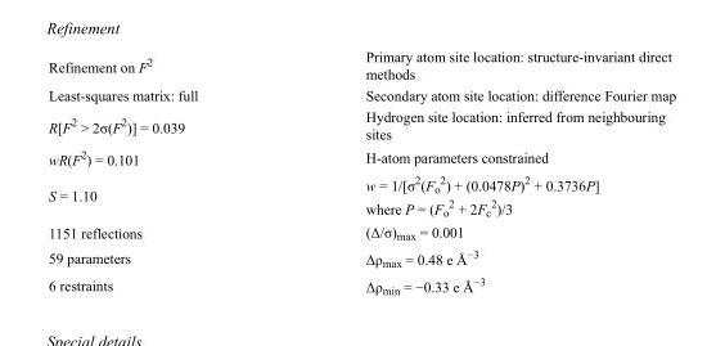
<table><tbody><tr><td>Refinement on F<sup>2</sup></td><td>Primary atom site location: structure-invariant direct methods</td></tr><tr><td>Least-squares matrix: full</td><td>Secondary atom site location: difference Fourier map</td></tr><tr><td>R[F<sup>2</sup> &gt; 2σ(F<sup>2</sup>)] = 0.039</td><td>Hydrogen site location: inferred from neighbouring sites</td></tr><tr><td>wR(F<sup>2</sup>) = 0.101</td><td>H-atom parameters constrained</td></tr><tr><td>S = 1.10</td><td>w = 1/[σ<sup>2</sup>(F<sub>o</sub> <sup>2</sup>) + (0.0478P)<sup>2</sup> + 0.3736P] where P = (F<sub>o</sub> <sup>2</sup> + 2F<sub>c</sub> <sup>2</sup>)/3</td></tr><tr><td>1151 reflections</td><td>(Δ/σ)<sub>max</sub> = 0.001</td></tr><tr><td>59 parameters</td><td>Δρ<sub>max</sub> = 0.48 e Å<sup>−3</sup></td></tr><tr><td>6 restraints</td><td>Δρ<sub>min</sub> = −0.33 e Å<sup>−3</sup></td></tr></tbody></table>